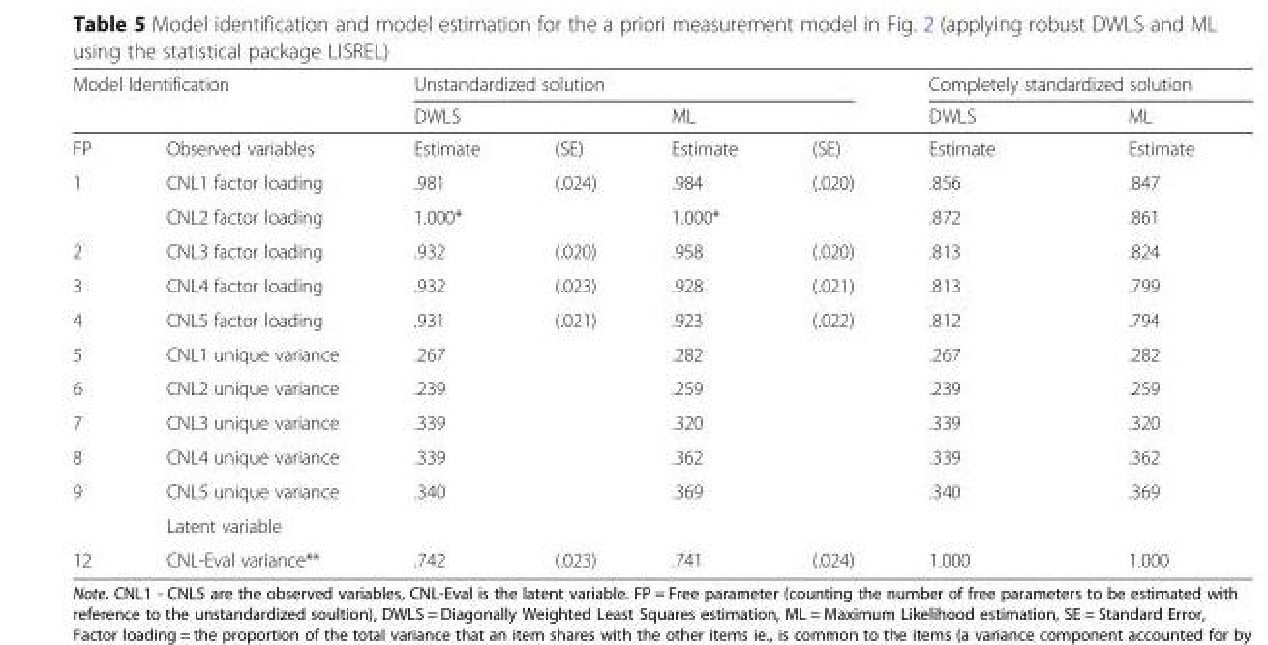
<table><thead><tr><td rowspan="2" colspan="2">Model Identification</td><td colspan="4">Unstandardized solution</td><td colspan="2">Completely standardized solution</td></tr><tr><td colspan="2">DWLS</td><td colspan="2">ML</td><td rowspan="2">DWLS Estimate</td><td rowspan="2">ML Estimate</td></tr><tr><td>FP</td><td>Observed variables</td><td>Estimate</td><td>(SE)</td><td>Estimate</td><td>(SE)</td></tr></thead><tbody><tr><td rowspan="2">1</td><td>CNL1 factor loading</td><td>.981</td><td>(.024)</td><td>.984</td><td>(.020)</td><td>.856</td><td>.847</td></tr><tr><td>CNL2 factor loading</td><td>1.000*</td><td></td><td>1.000*</td><td></td><td>.872</td><td>.861</td></tr><tr><td>2</td><td>CNL3 factor loading</td><td>.932</td><td>(.020)</td><td>.958</td><td>(.020)</td><td>.813</td><td>.824</td></tr><tr><td>3</td><td>CNL4 factor loading</td><td>.932</td><td>(.023)</td><td>.928</td><td>(.021)</td><td>.813</td><td>.799</td></tr><tr><td>4</td><td>CNL5 factor loading</td><td>.931</td><td>(.021)</td><td>.923</td><td>(.022)</td><td>.812</td><td>.794</td></tr><tr><td>5</td><td>CNL1 unique variance</td><td>.267</td><td></td><td>.282</td><td></td><td>.267</td><td>.282</td></tr><tr><td>6</td><td>CNL2 unique variance</td><td>.239</td><td></td><td>.259</td><td></td><td>.239</td><td>.259</td></tr><tr><td>7</td><td>CNL3 unique variance</td><td>.339</td><td></td><td>.320</td><td></td><td>.339</td><td>.320</td></tr><tr><td>8</td><td>CNL4 unique variance</td><td>.339</td><td></td><td>.362</td><td></td><td>.339</td><td>.362</td></tr><tr><td rowspan="2">9</td><td>CNL5 unique variance</td><td>.340</td><td></td><td>.369</td><td></td><td>.340</td><td>.369</td></tr><tr><td>Latent variable</td><td colspan="5"></td><td></td></tr><tr><td>12</td><td>CNL-Eval variance**</td><td>.742</td><td>(.023)</td><td>.741</td><td>(.024)</td><td>1.000</td><td>1.000</td></tr></tbody></table>